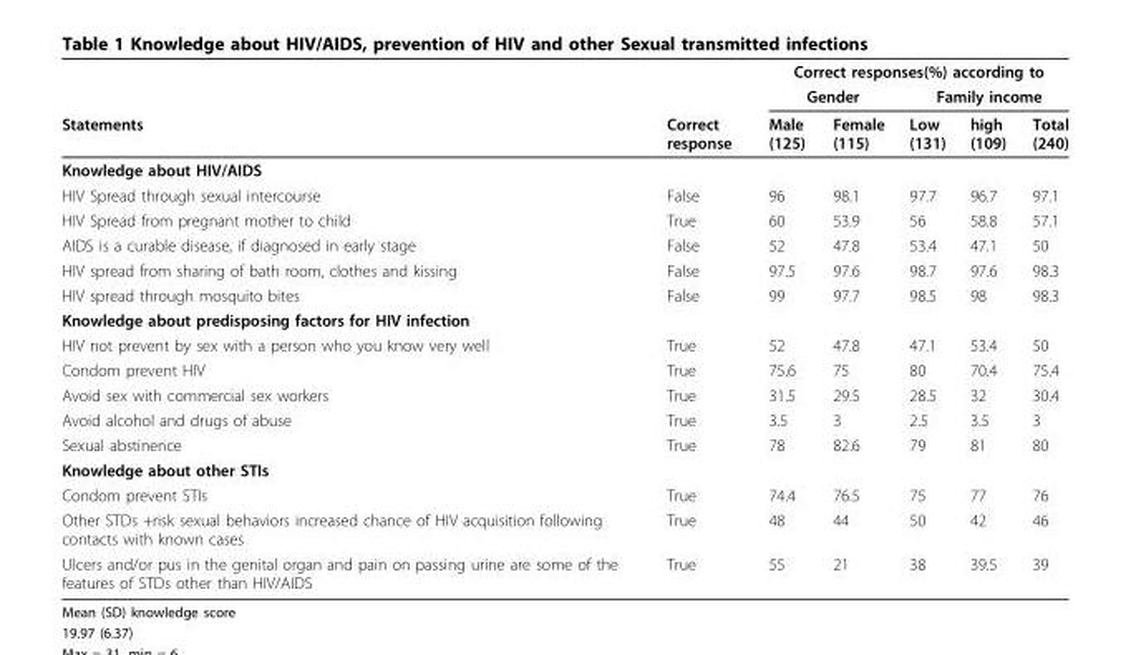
<table><thead><tr><td rowspan="3">Statements</td><td rowspan="3">Correct response</td><td colspan="5">Correct responses(%) according to</td></tr><tr><td colspan="2">Gender</td><td colspan="3">Family income</td></tr><tr><td>Male (125)</td><td>Female (115)</td><td>Low (131)</td><td>high (109)</td><td>Total (240)</td></tr></thead><tbody><tr><td colspan="7">Knowledge about HIV/AIDS</td></tr><tr><td>HIV Spread through sexual intercourse</td><td>False</td><td>96</td><td>98.1</td><td>97.7</td><td>96.7</td><td>97.1</td></tr><tr><td>HIV Spread from pregnant mother to child</td><td>True</td><td>60</td><td>53.9</td><td>56</td><td>58.8</td><td>57.1</td></tr><tr><td>AIDS is a curable disease, if diagnosed in early stage</td><td>False</td><td>52</td><td>47.8</td><td>53.4</td><td>47.1</td><td>50</td></tr><tr><td>HIV spread from sharing of bath room, clothes and kissing</td><td>False</td><td>97.5</td><td>97.6</td><td>98.7</td><td>97.6</td><td>98.3</td></tr><tr><td>HIV spread through mosquito bites</td><td>False</td><td>99</td><td>97.7</td><td>98.5</td><td>98</td><td>98.3</td></tr><tr><td colspan="7">Knowledge about predisposing factors for HIV infection</td></tr><tr><td>HIV not prevent by sex with a person who you know very well</td><td>True</td><td>52</td><td>47.8</td><td>47.1</td><td>53.4</td><td>50</td></tr><tr><td>Condom prevent HIV</td><td>True</td><td>75.6</td><td>75</td><td>80</td><td>70.4</td><td>75.4</td></tr><tr><td>Avoid sex with commercial sex workers</td><td>True</td><td>31.5</td><td>29.5</td><td>28.5</td><td>32</td><td>30.4</td></tr><tr><td>Avoid alcohol and drugs of abuse</td><td>True</td><td>3.5</td><td>3</td><td>2.5</td><td>3.5</td><td>3</td></tr><tr><td>Sexual abstinence</td><td>True</td><td>78</td><td>82.6</td><td>79</td><td>81</td><td>80</td></tr><tr><td colspan="7">Knowledge about other STIs</td></tr><tr><td>Condom prevent STIs</td><td>True</td><td>74.4</td><td>76.5</td><td>75</td><td>77</td><td>76</td></tr><tr><td>Other STDs +risk sexual behaviors increased chance of HIV acquisition following contacts with known cases</td><td>True</td><td>48</td><td>44</td><td>50</td><td>42</td><td>46</td></tr><tr><td>Ulcers and/or pus in the genital organ and pain on passing urine are some of the features of STDs other than HIV/AIDS</td><td>True</td><td>55</td><td>21</td><td>38</td><td>39.5</td><td>39</td></tr></tbody></table>